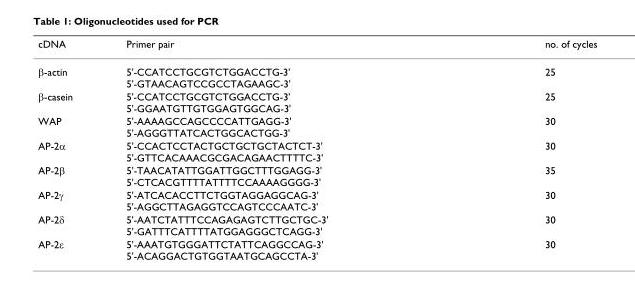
<table><thead><tr><td>cDNA</td><td>Primer pair</td><td>no. of cycles</td></tr></thead><tbody><tr><td>β-actin</td><td>5&#x27;-CCATCCTGCGTCTGGACCTG-3&#x27; 5&#x27;-GTAACAGTCCGCCTAGAAGC-3&#x27;</td><td>25</td></tr><tr><td>β-casein</td><td>5&#x27;-CCATCCTGCGTCTGGACCTG-3&#x27; 5&#x27;-GGAATGTTGTGGAGTGGCAG-3&#x27;</td><td>25</td></tr><tr><td>WAP</td><td>5&#x27;-AAAAGCCAGCCCCATTGAGG-3&#x27; 5&#x27;-AGGGTTATCACTGGCACTGG-3&#x27;</td><td>30</td></tr><tr><td>AP-2α</td><td>5&#x27;-CCACTCCTACTGCTGCTGCTACTCT-3&#x27; 5&#x27;-GTTCACAAACGCGACAGAACTTTTC-3&#x27;</td><td>30</td></tr><tr><td>AP-2β</td><td>5&#x27;-TAACATATTGGATTGGCTTTGGAGG-3&#x27; 5&#x27;-CTCACGTTTTATTTTCCAAAAGGGG-3&#x27;</td><td>35</td></tr><tr><td>AP-2γ</td><td>5&#x27;-ATCACACCTTCTGGTAGGAGGCAG-3&#x27; 5&#x27;-AGGCTTAGAGGTCCAGTCCCAATC-3&#x27;</td><td>30</td></tr><tr><td>AP-2δ</td><td>5&#x27;-AATCTATTTCCAGAGAGTCTTGCTGC-3&#x27; 5&#x27;-GATTTCATTTTATGGAGGGCTCAGG-3&#x27;</td><td>30</td></tr><tr><td>AP-2ε</td><td>5&#x27;-AAATGTGGGATTCTATTCAGGCCAG-3&#x27; 5&#x27;-ACAGGACTGTGGTAATGCAGCCTA-3&#x27;</td><td>30</td></tr></tbody></table>